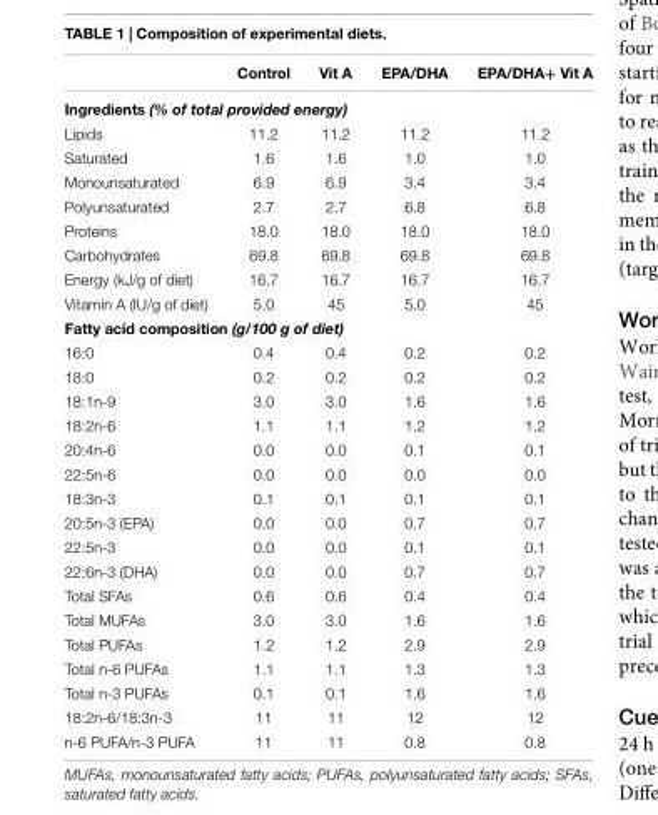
<table><thead><tr><td></td><td>Control</td><td>Vit A</td><td>EPA/DHA</td><td>EPA/DHA+ Vit A</td></tr></thead><tbody><tr><td colspan="5">Ingredients (% of total provided energy)</td></tr><tr><td>Lipids</td><td>11.2</td><td>11.2</td><td>11.2</td><td>11.2</td></tr><tr><td>Saturated</td><td>1.6</td><td>1.6</td><td>1.0</td><td>1.0</td></tr><tr><td>Monounsaturated</td><td>6.9</td><td>6.9</td><td>3.4</td><td>3.4</td></tr><tr><td>Polyunsaturated</td><td>2.7</td><td>2.7</td><td>6.8</td><td>6.8</td></tr><tr><td>Proteins</td><td>18.0</td><td>18.0</td><td>18.0</td><td>18.0</td></tr><tr><td>Carbohydrates</td><td>69.8</td><td>69.8</td><td>69.8</td><td>69.8</td></tr><tr><td>Energy (kJ/g of diet)</td><td>16.7</td><td>16.7</td><td>16.7</td><td>16.7</td></tr><tr><td>Vitamin A (IU/g of diet)</td><td>5.0</td><td>45</td><td>5.0</td><td>45</td></tr><tr><td colspan="5">Fatty acid composition (g/100 g of diet)</td></tr><tr><td>16:0</td><td>0.4</td><td>0.4</td><td>0.2</td><td>0.2</td></tr><tr><td>18:0</td><td>0.2</td><td>0.2</td><td>0.2</td><td>0.2</td></tr><tr><td>18:1n-9</td><td>3.0</td><td>3.0</td><td>1.6</td><td>1.6</td></tr><tr><td>18:2n-6</td><td>1.1</td><td>1.1</td><td>1.2</td><td>1.2</td></tr><tr><td>20:4n-6</td><td>0.0</td><td>0.0</td><td>0.1</td><td>0.1</td></tr><tr><td>22:5n-6</td><td>0.0</td><td>0.0</td><td>0.0</td><td>0.0</td></tr><tr><td>18:3n-3</td><td>0.1</td><td>0.1</td><td>0.1</td><td>0.1</td></tr><tr><td>20:5n-3 (EPA)</td><td>0.0</td><td>0.0</td><td>0.7</td><td>0.7</td></tr><tr><td>22:5n-3</td><td>0.0</td><td>0.0</td><td>0.1</td><td>0.1</td></tr><tr><td>22:6n-3 (DHA)</td><td>0.0</td><td>0.0</td><td>0.7</td><td>0.7</td></tr><tr><td>Total SFAs</td><td>0.6</td><td>0.6</td><td>0.4</td><td>0.4</td></tr><tr><td>Total MUFAs</td><td>3.0</td><td>3.0</td><td>1.6</td><td>1.6</td></tr><tr><td>Total PUFAs</td><td>1.2</td><td>1.2</td><td>2.9</td><td>2.9</td></tr><tr><td>Total n-6 PUFAs</td><td>1.1</td><td>1.1</td><td>1.3</td><td>1.3</td></tr><tr><td>Total n-3 PUFAs</td><td>0.1</td><td>0.1</td><td>1.6</td><td>1.6</td></tr><tr><td>18:2n-6/18:3n-3</td><td>11</td><td>11</td><td>12</td><td>12</td></tr><tr><td>n-6 PUFA/n-3 PUFA</td><td>11</td><td>11</td><td>0.8</td><td>0.8</td></tr></tbody></table>